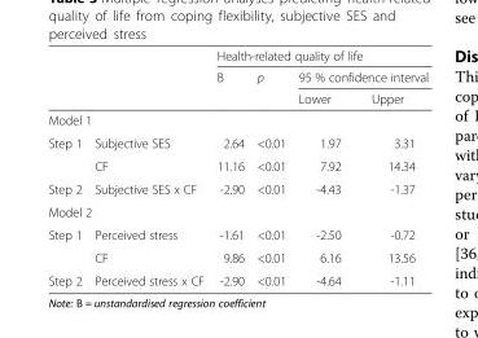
<table><thead><tr><td rowspan="3"></td><td rowspan="3"></td><td colspan="4">Health-related quality of life</td></tr><tr><td rowspan="2">B</td><td rowspan="2">p</td><td colspan="2">95 % confidence interval</td></tr><tr><td>Lower</td><td>Upper</td></tr></thead><tbody><tr><td colspan="6">Model 1</td></tr><tr><td rowspan="2">Step 1</td><td>Subjective SES</td><td>2.64</td><td>&lt;0.01</td><td>1.97</td><td>3.31</td></tr><tr><td>CF</td><td>11.16</td><td>&lt;0.01</td><td>7.92</td><td>14.34</td></tr><tr><td>Step 2</td><td>Subjective SES x CF</td><td>-2.90</td><td>&lt;0.01</td><td>-4.43</td><td>-1.37</td></tr><tr><td colspan="6">Model 2</td></tr><tr><td rowspan="2">Step 1</td><td>Perceived stress</td><td>-1.61</td><td>&lt;0.01</td><td>-2.50</td><td>-0.72</td></tr><tr><td>CF</td><td>9.86</td><td>&lt;0.01</td><td>6.16</td><td>13.56</td></tr><tr><td>Step 2</td><td>Perceived stress x CF</td><td>-2.90</td><td>&lt;0.01</td><td>-4.64</td><td>-1.11</td></tr></tbody></table>